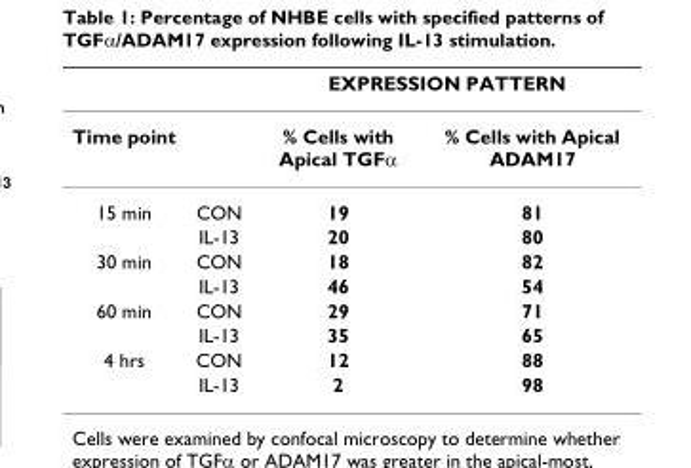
<table><thead><tr><td rowspan="2">Time point</td><td rowspan="2"></td><td colspan="2">EXPRESSION PATTERN</td></tr><tr><td>% Cells with Apical TGFα</td><td>% Cells with Apical ADAM17</td></tr></thead><tbody><tr><td rowspan="2">15 min</td><td>CON</td><td>19</td><td>81</td></tr><tr><td>IL-13</td><td>20</td><td>80</td></tr><tr><td rowspan="2">30 min</td><td>CON</td><td>18</td><td>82</td></tr><tr><td>IL-13</td><td>46</td><td>54</td></tr><tr><td rowspan="2">60 min</td><td>CON</td><td>29</td><td>71</td></tr><tr><td>IL-13</td><td>35</td><td>65</td></tr><tr><td rowspan="2">4 hrs</td><td>CON</td><td>12</td><td>88</td></tr><tr><td>IL-13</td><td>2</td><td>98</td></tr></tbody></table>